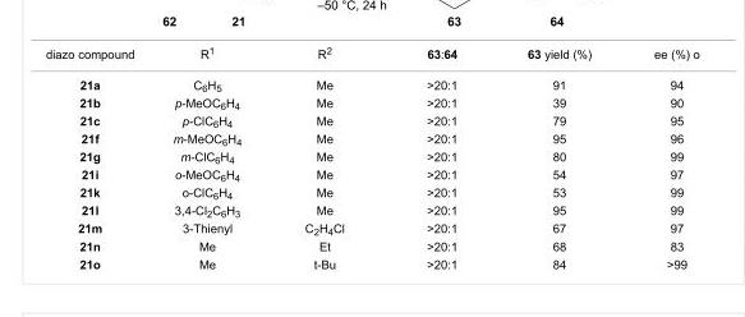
<table><tbody><tr><td>diazo compound</td><td>R<sup>1</sup></td><td>R<sup>2</sup></td><td>63:64</td><td>63 yield (%)</td><td>ee (%) o</td></tr><tr><td>21a</td><td>C<sub>6</sub>H<sub>5</sub></td><td>Me</td><td>&gt;20:1</td><td>91</td><td>94</td></tr><tr><td>21b</td><td>p-MeOC<sub>6</sub>H<sub>4</sub></td><td>Me</td><td>&gt;20:1</td><td>39</td><td>90</td></tr><tr><td>21c</td><td>p-ClC<sub>6</sub>H<sub>4</sub></td><td>Me</td><td>&gt;20:1</td><td>79</td><td>95</td></tr><tr><td>21f</td><td>m-MeOC<sub>6</sub>H<sub>4</sub></td><td>Me</td><td>&gt;20:1</td><td>95</td><td>96</td></tr><tr><td>21g</td><td>m-ClC<sub>6</sub>H<sub>4</sub></td><td>Me</td><td>&gt;20:1</td><td>80</td><td>99</td></tr><tr><td>21i</td><td>o-MeOC<sub>6</sub>H<sub>4</sub></td><td>Me</td><td>&gt;20:1</td><td>54</td><td>97</td></tr><tr><td>21k</td><td>o-ClC<sub>6</sub>H<sub>4</sub></td><td>Me</td><td>&gt;20:1</td><td>53</td><td>99</td></tr><tr><td>21l</td><td>3,4-Cl<sub>2</sub>C<sub>6</sub>H<sub>3</sub></td><td>Me</td><td>&gt;20:1</td><td>95</td><td>99</td></tr><tr><td>21m</td><td>3-Thienyl</td><td>C<sub>2</sub>H<sub>4</sub>Cl</td><td>&gt;20:1</td><td>67</td><td>97</td></tr><tr><td>21n</td><td>Me</td><td>Et</td><td>&gt;20:1</td><td>68</td><td>83</td></tr><tr><td>21o</td><td>Me</td><td>t-Bu</td><td>&gt;20:1</td><td>84</td><td>&gt;99</td></tr></tbody></table>